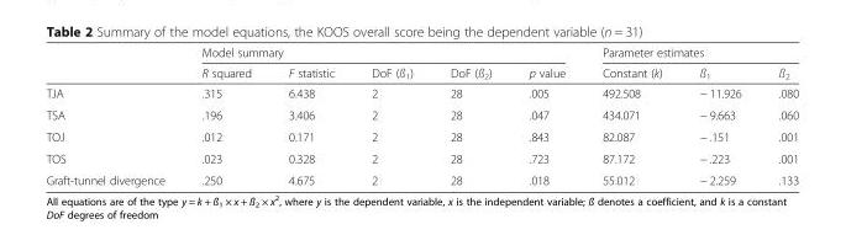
<table><thead><tr><td rowspan="2"></td><td colspan="5">Model summary</td><td colspan="3">Parameter estimates</td></tr><tr><td>R squared</td><td>F statistic</td><td>DoF (ß<sub>1</sub>)</td><td>DoF (ß<sub>2</sub>)</td><td>p value</td><td>Constant (k)</td><td>ß<sub>1</sub></td><td>ß<sub>2</sub></td></tr></thead><tbody><tr><td>TJA</td><td>.315</td><td>6.438</td><td>2</td><td>28</td><td>.005</td><td>492.508</td><td>− 11.926</td><td>.080</td></tr><tr><td>TSA</td><td>.196</td><td>3.406</td><td>2</td><td>28</td><td>.047</td><td>434.071</td><td>− 9.663</td><td>.060</td></tr><tr><td>TOJ</td><td>.012</td><td>0.171</td><td>2</td><td>28</td><td>.843</td><td>82.087</td><td>− .151</td><td>.001</td></tr><tr><td>TOS</td><td>.023</td><td>0.328</td><td>2</td><td>28</td><td>.723</td><td>87.172</td><td>− .223</td><td>.001</td></tr><tr><td>Graft-tunnel divergence</td><td>.250</td><td>4.675</td><td>2</td><td>28</td><td>.018</td><td>55.012</td><td>− 2.259</td><td>.133</td></tr></tbody></table>